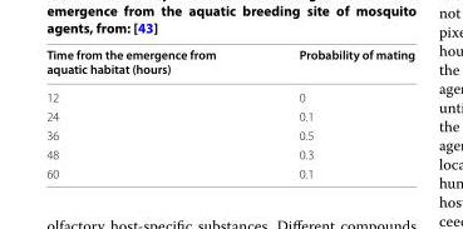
<table><thead><tr><td>Time from the emergence from aquatic habitat (hours)</td><td>Probability of mating</td></tr></thead><tbody><tr><td>12</td><td>0</td></tr><tr><td>24</td><td>0.1</td></tr><tr><td>36</td><td>0.5</td></tr><tr><td>48</td><td>0.3</td></tr><tr><td>60</td><td>0.1</td></tr></tbody></table>